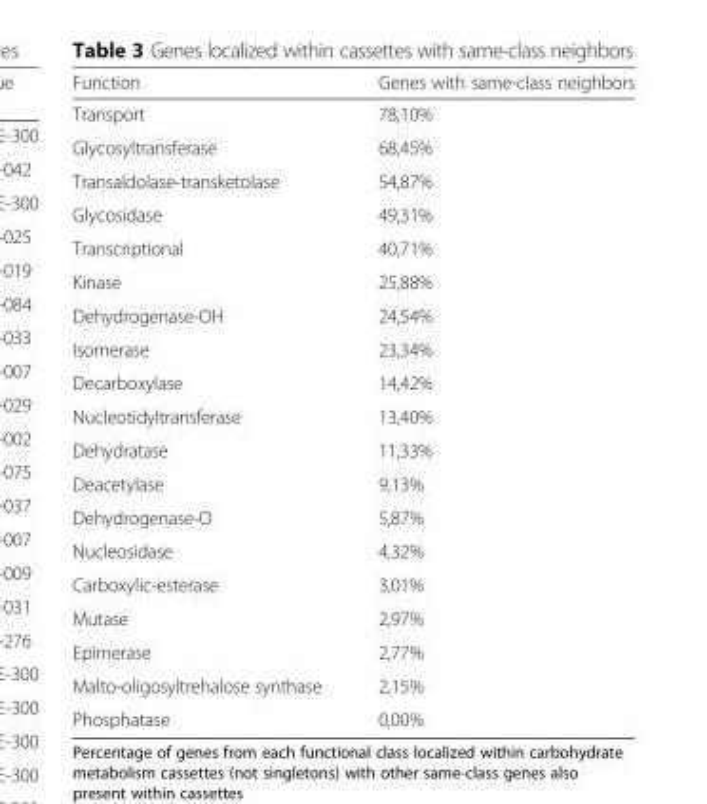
<table><thead><tr><td>Function</td><td>Genes with same-class neighbors</td></tr></thead><tbody><tr><td>Transport</td><td>78,10%</td></tr><tr><td>Glycosyltransferase</td><td>68,45%</td></tr><tr><td>Transaldolase-transketolase</td><td>54,87%</td></tr><tr><td>Glycosidase</td><td>49,31%</td></tr><tr><td>Transcriptional</td><td>40,71%</td></tr><tr><td>Kinase</td><td>25,88%</td></tr><tr><td>Dehydrogenase-OH</td><td>24,54%</td></tr><tr><td>Isomerase</td><td>23,34%</td></tr><tr><td>Decarboxylase</td><td>14,42%</td></tr><tr><td>Nucleotidyltransferase</td><td>13,40%</td></tr><tr><td>Dehydratase</td><td>11,33%</td></tr><tr><td>Deacetylase</td><td>9,13%</td></tr><tr><td>Dehydrogenase-O</td><td>5,87%</td></tr><tr><td>Nucleosidase</td><td>4,32%</td></tr><tr><td>Carboxylic-esterase</td><td>3,01%</td></tr><tr><td>Mutase</td><td>2,97%</td></tr><tr><td>Epimerase</td><td>2,77%</td></tr><tr><td>Malto-oligosyltrehalose synthase</td><td>2,15%</td></tr><tr><td>Phosphatase</td><td>0,00%</td></tr></tbody></table>